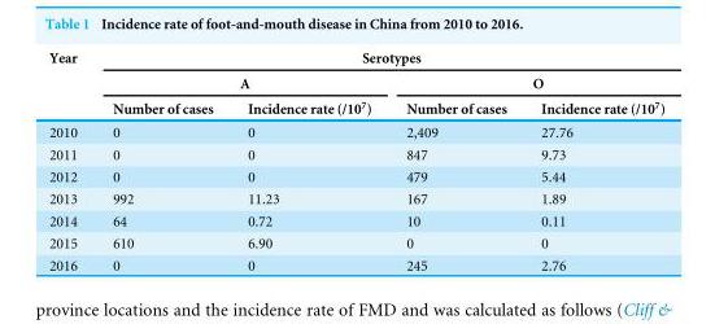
<table><thead><tr><td rowspan="3">Year</td><td colspan="4">Serotypes</td></tr><tr><td colspan="2">A</td><td colspan="2">O</td></tr><tr><td>Number of cases</td><td>Incidence rate (/10<sup>7</sup>)</td><td>Number of cases</td><td>Incidence rate (/10<sup>7</sup>)</td></tr></thead><tbody><tr><td>2010</td><td>0</td><td>0</td><td>2,409</td><td>27.76</td></tr><tr><td>2011</td><td>0</td><td>0</td><td>847</td><td>9.73</td></tr><tr><td>2012</td><td>0</td><td>0</td><td>479</td><td>5.44</td></tr><tr><td>2013</td><td>992</td><td>11.23</td><td>167</td><td>1.89</td></tr><tr><td>2014</td><td>64</td><td>0.72</td><td>10</td><td>0.11</td></tr><tr><td>2015</td><td>610</td><td>6.90</td><td>0</td><td>0</td></tr><tr><td>2016</td><td>0</td><td>0</td><td>245</td><td>2.76</td></tr></tbody></table>